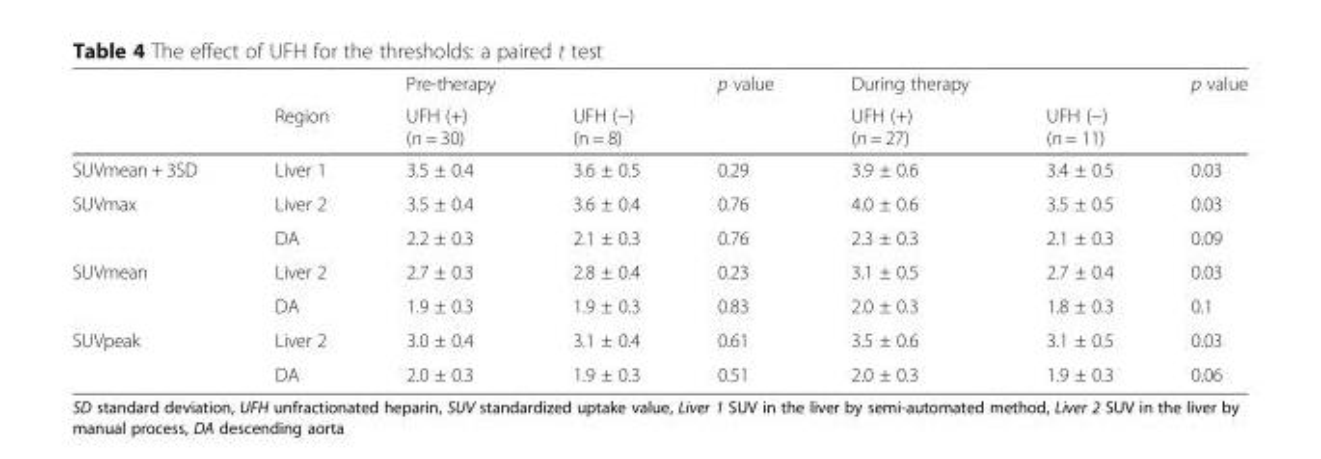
<table><thead><tr><td rowspan="2"></td><td rowspan="2">Region</td><td rowspan="2">Pre-therapy UFH (+) (n = 30)</td><td rowspan="2">UFH (−) (n = 8)</td><td rowspan="2">p value</td><td rowspan="2">During therapy UFH (+) (n = 27)</td><td rowspan="2">UFH (−) (n = 11)</td><td rowspan="2">p value</td></tr><tr></tr></thead><tbody><tr><td>SUVmean + 3SD</td><td>Liver 1</td><td>3.5 ± 0.4</td><td>3.6 ± 0.5</td><td>0.29</td><td>3.9 ± 0.6</td><td>3.4 ± 0.5</td><td>0.03</td></tr><tr><td rowspan="2">SUVmax</td><td>Liver 2</td><td>3.5 ± 0.4</td><td>3.6 ± 0.4</td><td>0.76</td><td>4.0 ± 0.6</td><td>3.5 ± 0.5</td><td>0.03</td></tr><tr><td>DA</td><td>2.2 ± 0.3</td><td>2.1 ± 0.3</td><td>0.76</td><td>2.3 ± 0.3</td><td>2.1 ± 0.3</td><td>0.09</td></tr><tr><td rowspan="2">SUVmean</td><td>Liver 2</td><td>2.7 ± 0.3</td><td>2.8 ± 0.4</td><td>0.23</td><td>3.1 ± 0.5</td><td>2.7 ± 0.4</td><td>0.03</td></tr><tr><td>DA</td><td>1.9 ± 0.3</td><td>1.9 ± 0.3</td><td>0.83</td><td>2.0 ± 0.3</td><td>1.8 ± 0.3</td><td>0.1</td></tr><tr><td rowspan="2">SUVpeak</td><td>Liver 2</td><td>3.0 ± 0.4</td><td>3.1 ± 0.4</td><td>0.61</td><td>3.5 ± 0.6</td><td>3.1 ± 0.5</td><td>0.03</td></tr><tr><td>DA</td><td>2.0 ± 0.3</td><td>1.9 ± 0.3</td><td>0.51</td><td>2.0 ± 0.3</td><td>1.9 ± 0.3</td><td>0.06</td></tr></tbody></table>